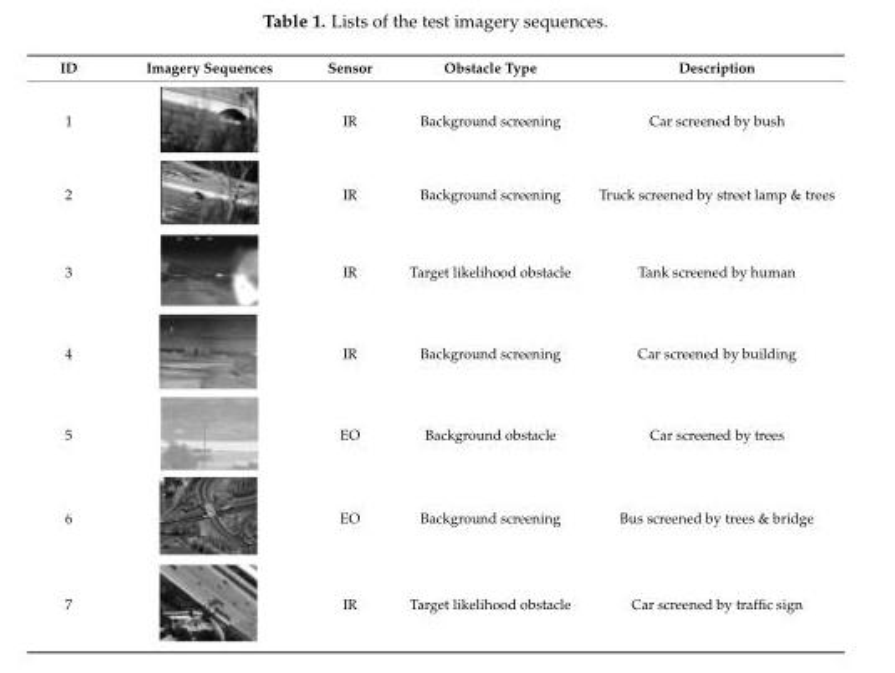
<table><thead><tr><td>ID</td><td>Imagery Sequences</td><td>Sensor</td><td>Obstacle Type</td><td>Description</td></tr></thead><tbody><tr><td>1</td><td></td><td>IR</td><td>Background screening</td><td>Car screened by bush</td></tr><tr><td>2</td><td></td><td>IR</td><td>Background screening</td><td>Truck screened by street lamp &amp; trees</td></tr><tr><td>3</td><td></td><td>IR</td><td>Target likelihood obstacle</td><td>Tank screened by human</td></tr><tr><td>4</td><td></td><td>IR</td><td>Background screening</td><td>Car screened by building</td></tr><tr><td>5</td><td></td><td>EO</td><td>Background obstacle</td><td>Car screened by trees</td></tr><tr><td>6</td><td></td><td>EO</td><td>Background screening</td><td>Bus screened by trees &amp; bridge</td></tr><tr><td>7</td><td></td><td>IR</td><td>Target likelihood obstacle</td><td>Car screened by traffic sign</td></tr></tbody></table>